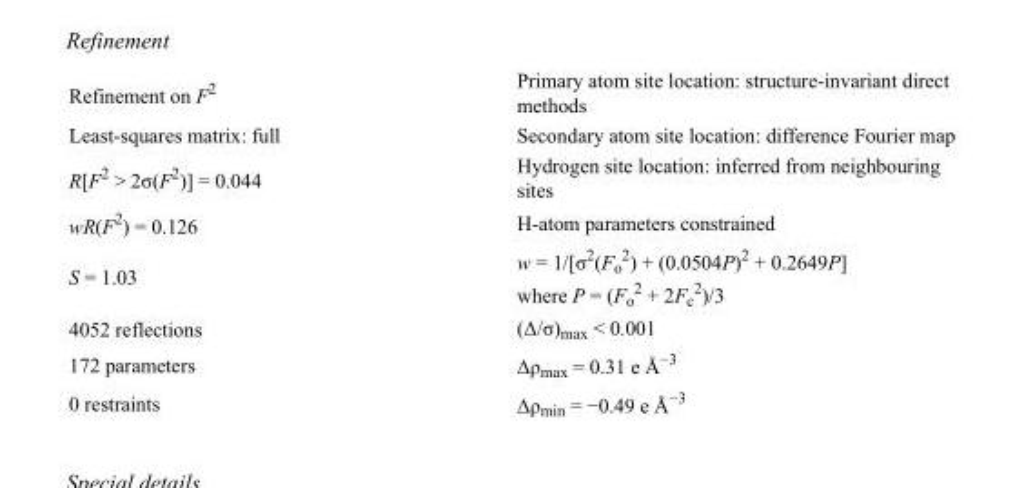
<table><tbody><tr><td>Refinement on F<sup>2</sup></td><td>Primary atom site location: structure-invariant direct methods</td></tr><tr><td>Least-squares matrix: full</td><td>Secondary atom site location: difference Fourier map</td></tr><tr><td>R[F<sup>2</sup> &gt; 2σ(F<sup>2</sup>)] = 0.044</td><td>Hydrogen site location: inferred from neighbouring sites</td></tr><tr><td>wR(F<sup>2</sup>) = 0.126</td><td>H-atom parameters constrained</td></tr><tr><td>S = 1.03</td><td>w = 1/[σ<sup>2</sup>(F<sub>o</sub> <sup>2</sup>) + (0.0504P)<sup>2</sup> + 0.2649P] where P = (F<sub>o</sub> <sup>2</sup> + 2F<sub>c</sub> <sup>2</sup>)/3</td></tr><tr><td>4052 reflections</td><td>(Δ/σ)<sub>max</sub> &lt; 0.001</td></tr><tr><td>172 parameters</td><td>Δρ<sub>max</sub> = 0.31 e Å<sup>−3</sup></td></tr><tr><td>0 restraints</td><td>Δρ<sub>min</sub> = −0.49 e Å<sup>−3</sup></td></tr></tbody></table>